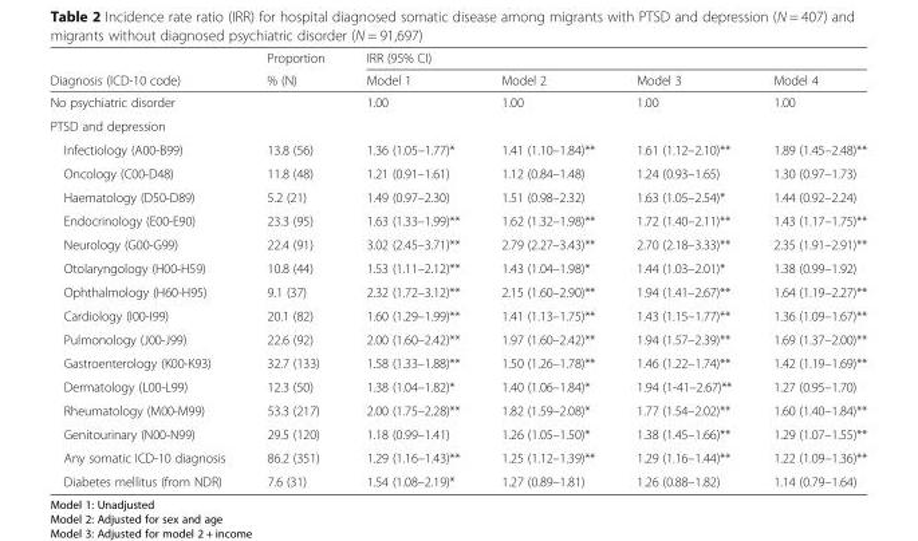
<table><thead><tr><td rowspan="2">Diagnosis (ICD-10 code)</td><td rowspan="2">Proportion % (N)</td><td colspan="4">IRR (95% CI)</td></tr><tr><td>Model 1</td><td>Model 2</td><td>Model 3</td><td>Model 4</td></tr></thead><tbody><tr><td>No psychiatric disorder</td><td></td><td>1.00</td><td>1.00</td><td>1.00</td><td>1.00</td></tr><tr><td colspan="6">PTSD and depression</td></tr><tr><td>Infectiology (A00-B99)</td><td>13.8 (56)</td><td>1.36 (1.05–1.77)*</td><td>1.41 (1.10–1.84)**</td><td>1.61 (1.12–2.10)**</td><td>1.89 (1.45–2.48)**</td></tr><tr><td>Oncology (C00-D48)</td><td>11.8 (48)</td><td>1.21 (0.91–1.61)</td><td>1.12 (0.84–1.48)</td><td>1.24 (0.93–1.65)</td><td>1.30 (0.97–1.73)</td></tr><tr><td>Haematology (D50-D89)</td><td>5.2 (21)</td><td>1.49 (0.97–2.30)</td><td>1.51 (0.98–2.32)</td><td>1.63 (1.05–2.54)*</td><td>1.44 (0.92–2.24)</td></tr><tr><td>Endocrinology (E00-E90)</td><td>23.3 (95)</td><td>1.63 (1.33–1.99)**</td><td>1.62 (1.32–1.98)**</td><td>1.72 (1.40–2.11)**</td><td>1.43 (1.17–1.75)**</td></tr><tr><td>Neurology (G00-G99)</td><td>22.4 (91)</td><td>3.02 (2.45–3.71)**</td><td>2.79 (2.27–3.43)**</td><td>2.70 (2.18–3.33)**</td><td>2.35 (1.91–2.91)**</td></tr><tr><td>Otolaryngology (H00-H59)</td><td>10.8 (44)</td><td>1.53 (1.11–2.12)**</td><td>1.43 (1.04–1.98)*</td><td>1.44 (1.03–2.01)*</td><td>1.38 (0.99–1.92)</td></tr><tr><td>Ophthalmology (H60-H95)</td><td>9.1 (37)</td><td>2.32 (1.72–3.12)**</td><td>2.15 (1.60–2.90)**</td><td>1.94 (1.41–2.67)**</td><td>1.64 (1.19–2.27)**</td></tr><tr><td>Cardiology (I00-I99)</td><td>20.1 (82)</td><td>1.60 (1.29–1.99)**</td><td>1.41 (1.13–1.75)**</td><td>1.43 (1.15–1.77)**</td><td>1.36 (1.09–1.67)**</td></tr><tr><td>Pulmonology (J00-J99)</td><td>22.6 (92)</td><td>2.00 (1.60–2.42)**</td><td>1.97 (1.60–2.42)**</td><td>1.94 (1.57–2.39)**</td><td>1.69 (1.37–2.00)**</td></tr><tr><td>Gastroenterology (K00-K93)</td><td>32.7 (133)</td><td>1.58 (1.33–1.88)**</td><td>1.50 (1.26–1.78)**</td><td>1.46 (1.22–1.74)**</td><td>1.42 (1.19–1.69)**</td></tr><tr><td>Dermatology (L00-L99)</td><td>12.3 (50)</td><td>1.38 (1.04–1.82)*</td><td>1.40 (1.06–1.84)*</td><td>1.94 (1-41–2.67)**</td><td>1.27 (0.95–1.70)</td></tr><tr><td>Rheumatology (M00-M99)</td><td>53.3 (217)</td><td>2.00 (1.75–2.28)**</td><td>1.82 (1.59–2.08)*</td><td>1.77 (1.54–2.02)**</td><td>1.60 (1.40–1.84)**</td></tr><tr><td>Genitourinary (N00-N99)</td><td>29.5 (120)</td><td>1.18 (0.99–1.41)</td><td>1.26 (1.05–1.50)*</td><td>1.38 (1.45–1.66)**</td><td>1.29 (1.07–1.55)**</td></tr><tr><td>Any somatic ICD-10 diagnosis</td><td>86.2 (351)</td><td>1.29 (1.16–1.43)**</td><td>1.25 (1.12–1.39)**</td><td>1.29 (1.16–1.44)**</td><td>1.22 (1.09–1.36)**</td></tr><tr><td>Diabetes mellitus (from NDR)</td><td>7.6 (31)</td><td>1.54 (1.08–2.19)*</td><td>1.27 (0.89–1.81)</td><td>1.26 (0.88–1.82)</td><td>1.14 (0.79–1.64)</td></tr></tbody></table>